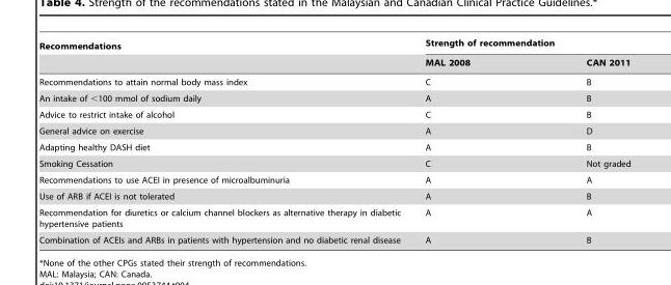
<table><thead><tr><td rowspan="2">Recommendations</td><td colspan="2">Strength of recommendation</td></tr><tr><td>MAL 2008</td><td>CAN 2011</td></tr></thead><tbody><tr><td>Recommendations to attain normal body mass index</td><td>C</td><td>B</td></tr><tr><td>An intake of &lt;100 mmol of sodium daily</td><td>A</td><td>B</td></tr><tr><td>Advice to restrict intake of alcohol</td><td>C</td><td>B</td></tr><tr><td>General advice on exercise</td><td>A</td><td>D</td></tr><tr><td>Adapting healthy DASH diet</td><td>A</td><td>B</td></tr><tr><td>Smoking Cessation</td><td>C</td><td>Not graded</td></tr><tr><td>Recommendations to use ACEI in presence of microalbuminuria</td><td>A</td><td>A</td></tr><tr><td>Use of ARB if ACEI is not tolerated</td><td>A</td><td>B</td></tr><tr><td>Recommendation for diuretics or calcium channel blockers as alternative therapy in diabetic hypertensive patients</td><td>A</td><td>A</td></tr><tr><td>Combination of ACEIs and ARBs in patients with hypertension and no diabetic renal disease</td><td>A</td><td>B</td></tr></tbody></table>